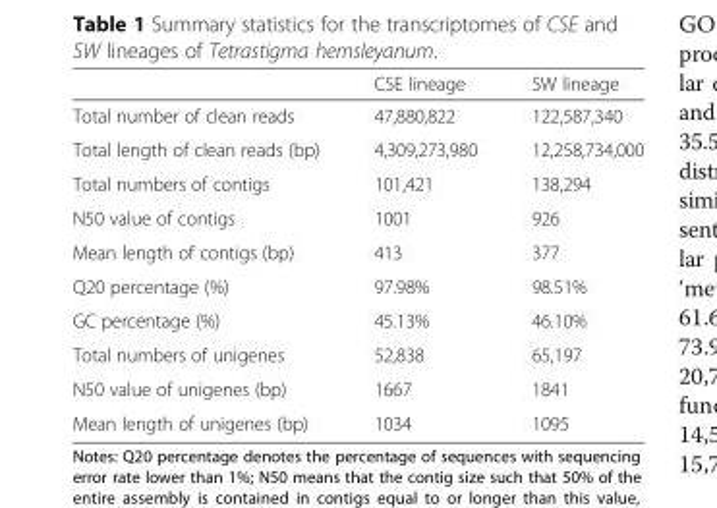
<table><thead><tr><td></td><td>CSE lineage</td><td>SW lineage</td></tr></thead><tbody><tr><td>Total number of clean reads</td><td>47,880,822</td><td>122,587,340</td></tr><tr><td>Total length of clean reads (bp)</td><td>4,309,273,980</td><td>12,258,734,000</td></tr><tr><td>Total numbers of contigs</td><td>101,421</td><td>138,294</td></tr><tr><td>N50 value of contigs</td><td>1001</td><td>926</td></tr><tr><td>Mean length of contigs (bp)</td><td>413</td><td>377</td></tr><tr><td>Q20 percentage (%)</td><td>97.98%</td><td>98.51%</td></tr><tr><td>GC percentage (%)</td><td>45.13%</td><td>46.10%</td></tr><tr><td>Total numbers of unigenes</td><td>52,838</td><td>65,197</td></tr><tr><td>N50 value of unigenes (bp)</td><td>1667</td><td>1841</td></tr><tr><td>Mean length of unigenes (bp)</td><td>1034</td><td>1095</td></tr></tbody></table>